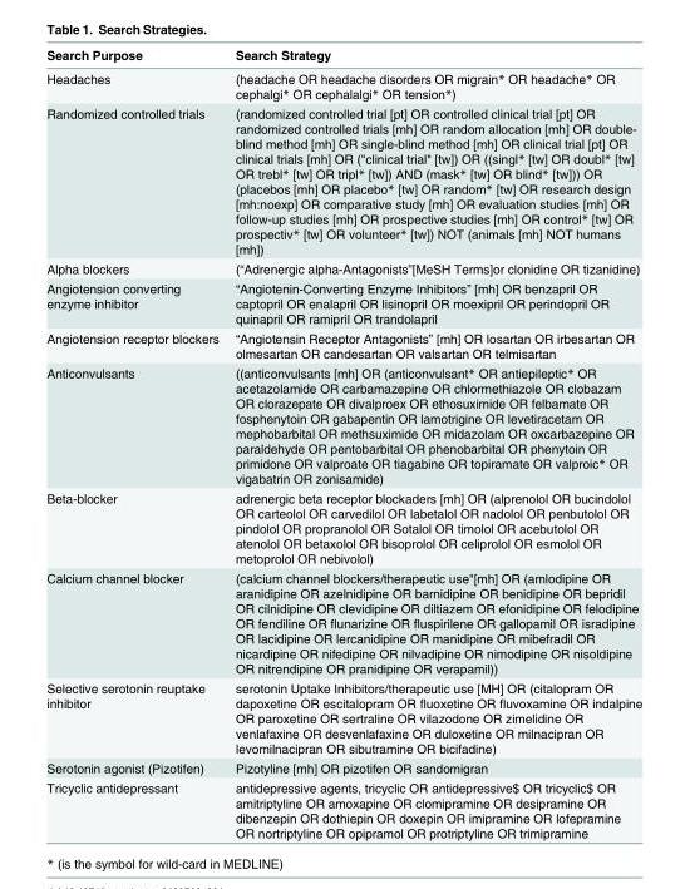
<table><thead><tr><td>Search Purpose</td><td>Search Strategy</td></tr></thead><tbody><tr><td>Headaches</td><td>(headache OR headache disorders OR migrain* OR headache* OR cephalgi* OR cephalalgi* OR tension*)</td></tr><tr><td>Randomized controlled trials</td><td>(randomized controlled trial [pt] OR controlled clinical trial [pt] OR randomized controlled trials [mh] OR random allocation [mh] OR double- blind method [mh] OR single-blind method [mh] OR clinical trial [pt] OR clinical trials [mh] OR (&quot;clinical trial&quot; [tw]) OR ((singl* [tw] OR doubl* [tw] OR trebl* [tw] OR tripl* [tw]) AND (mask* [tw] OR blind* [tw])) OR (placebos [mh] OR placebo* [tw] OR random* [tw] OR research design [mh:noexp] OR comparative study [mh] OR evaluation studies [mh] OR follow-up studies [mh] OR prospective studies [mh] OR control* [tw] OR prospectiv* [tw] OR volunteer* [tw]) NOT (animals [mh] NOT humans [mh])</td></tr><tr><td>Alpha blockers</td><td>(“Adrenergic alpha-Antagonists”[MeSH Terms]or clonidine OR tizanidine)</td></tr><tr><td>Angiotension converting enzyme inhibitor</td><td>“Angiotenin-Converting Enzyme Inhibitors” [mh] OR benzapril OR captopril OR enalapril OR lisinopril OR moexipril OR perindopril OR quinapril OR ramipril OR trandolapril</td></tr><tr><td>Angiotension receptor blockers</td><td>“Angiotensin Receptor Antagonists” [mh] OR losartan OR irbesartan OR olmesartan OR candesartan OR valsartan OR telmisartan</td></tr><tr><td>Anticonvulsants</td><td>((anticonvulsants [mh] OR (anticonvulsant* OR antiepileptic* OR acetazolamide OR carbamazepine OR chlormethiazole OR clobazam OR clorazepate OR divalproex OR ethosuximide OR felbamate OR fosphenytoin OR gabapentin OR lamotrigine OR levetiracetam OR mephobarbital OR methsuximide OR midazolam OR oxcarbazepine OR paraldehyde OR pentobarbital OR phenobarbital OR phenytoin OR primidone OR valproate OR tiagabine OR topiramate OR valproic* OR vigabatrin OR zonisamide)</td></tr><tr><td>Beta-blocker</td><td>adrenergic beta receptor blockaders [mh] OR (alprenolol OR bucindolol OR carteolol OR carvedilol OR labetalol OR nadolol OR penbutolol OR pindolol OR propranolol OR Sotalol OR timolol OR acebutolol OR atenolol OR betaxolol OR bisoprolol OR celiprolol OR esmolol OR metoprolol OR nebivolol)</td></tr><tr><td>Calcium channel blocker</td><td>(calcium channel blockers/therapeutic use&quot;[mh] OR (amlodipine OR aranidipine OR azelnidipine OR barnidipine OR benidipine OR bepridil OR cilnidipine OR clevidipine OR diltiazem OR efonidipine OR felodipine OR fendiline OR flunarizine OR fluspirilene OR gallopamil OR isradipine OR lacidipine OR lercanidipine OR manidipine OR mibefradil OR nicardipine OR nifedipine OR nilvadipine OR nimodipine OR nisoldipine OR nitrendipine OR pranidipine OR verapamil))</td></tr><tr><td>Selective serotonin reuptake inhibitor</td><td>serotonin Uptake Inhibitors/therapeutic use [MH] OR (citalopram OR dapoxetine OR escitalopram OR fluoxetine OR fluvoxamine OR indalpine OR paroxetine OR sertraline OR vilazodone OR zimelidine OR venlafaxine OR desvenlafaxine OR duloxetine OR milnacipran OR levomilnacipran OR sibutramine OR bicifadine)</td></tr><tr><td>Serotonin agonist (Pizotifen)</td><td>Pizotyline [mh] OR pizotifen OR sandomigran</td></tr><tr><td>Tricyclic antidepressant</td><td>antidepressive agents, tricyclic OR antidepressive$ OR tricyclic$ OR amitriptyline OR amoxapine OR clomipramine OR desipramine OR dibenzepin OR dothiepin OR doxepin OR imipramine OR lofepramine OR nortriptyline OR opipramol OR protriptyline OR trimipramine</td></tr></tbody></table>